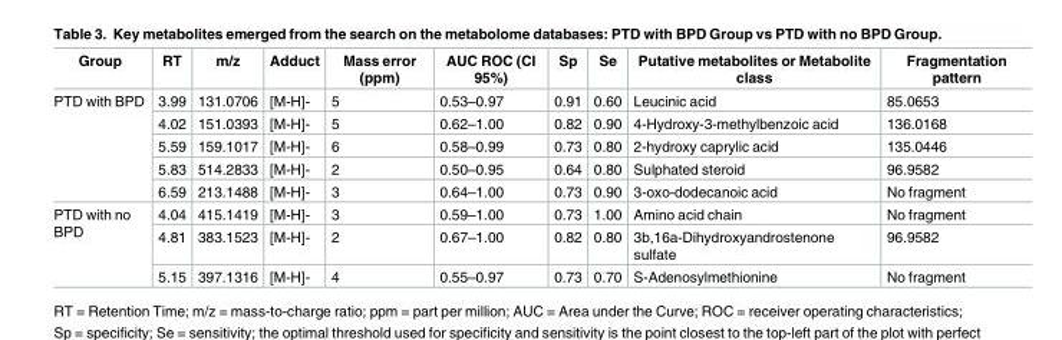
<table><thead><tr><td>Group</td><td>RT</td><td>m/z</td><td>Adduct</td><td>Mass error (ppm)</td><td>AUC ROC (CI 95%)</td><td>Sp</td><td>Se</td><td>Putative metabolites or Metabolite class</td><td>Fragmentation pattern</td></tr></thead><tbody><tr><td rowspan="5">PTD with BPD</td><td>3.99</td><td>131.0706</td><td>[M-H]-</td><td>5</td><td>0.53–0.97</td><td>0.91</td><td>0.60</td><td>Leucinic acid</td><td>85.0653</td></tr><tr><td>4.02</td><td>151.0393</td><td>[M-H]-</td><td>5</td><td>0.62–1.00</td><td>0.82</td><td>0.90</td><td>4-Hydroxy-3-methylbenzoic acid</td><td>136.0168</td></tr><tr><td>5.59</td><td>159.1017</td><td>[M-H]-</td><td>6</td><td>0.58–0.99</td><td>0.73</td><td>0.80</td><td>2-hydroxy caprylic acid</td><td>135.0446</td></tr><tr><td>5.83</td><td>514.2833</td><td>[M-H]-</td><td>2</td><td>0.50–0.95</td><td>0.64</td><td>0.80</td><td>Sulphated steroid</td><td>96.9582</td></tr><tr><td>6.59</td><td>213.1488</td><td>[M-H]-</td><td>3</td><td>0.64–1.00</td><td>0.73</td><td>0.90</td><td>3-oxo-dodecanoic acid</td><td>No fragment</td></tr><tr><td rowspan="3">PTD with no BPD</td><td>4.04</td><td>415.1419</td><td>[M-H]-</td><td>3</td><td>0.59–1.00</td><td>0.73</td><td>1.00</td><td>Amino acid chain</td><td>No fragment</td></tr><tr><td>4.81</td><td>383.1523</td><td>[M-H]-</td><td>2</td><td>0.67–1.00</td><td>0.82</td><td>0.80</td><td>3b,16a-Dihydroxyandrostenone sulfate</td><td>96.9582</td></tr><tr><td>5.15</td><td>397.1316</td><td>[M-H]-</td><td>4</td><td>0.55–0.97</td><td>0.73</td><td>0.70</td><td>S-Adenosylmethionine</td><td>No fragment</td></tr></tbody></table>